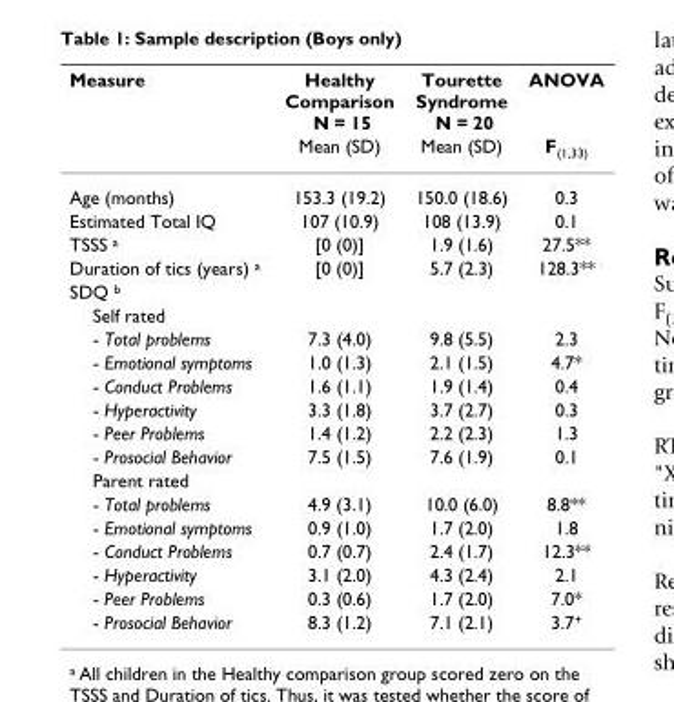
<table><thead><tr><td rowspan="2">Measure</td><td rowspan="2">Healthy Comparison N = 15 Mean (SD)</td><td rowspan="2">Tourette Syndrome N = 20 Mean (SD)</td><td rowspan="2">ANOVA F<sub>(1,33)</sub></td></tr><tr></tr></thead><tbody><tr><td>Age (months)</td><td>153.3 (19.2)</td><td>150.0 (18.6)</td><td>0.3</td></tr><tr><td>Estimated Total IQ</td><td>107 (10.9)</td><td>108 (13.9)</td><td>0.1</td></tr><tr><td>TSSS <sup>a</sup></td><td>[0 (0)]</td><td>1.9 (1.6)</td><td>27.5**</td></tr><tr><td>Duration of tics (years) <sup>a</sup></td><td>[0 (0)]</td><td>5.7 (2.3)</td><td>128.3**</td></tr><tr><td colspan="4">SDQ <sup>b</sup></td></tr><tr><td colspan="4">Self rated</td></tr><tr><td>- Total problems</td><td>7.3 (4.0)</td><td>9.8 (5.5)</td><td>2.3</td></tr><tr><td>- Emotional symptoms</td><td>1.0 (1.3)</td><td>2.1 (1.5)</td><td>4.7*</td></tr><tr><td>- Conduct Problems</td><td>1.6 (1.1)</td><td>1.9 (1.4)</td><td>0.4</td></tr><tr><td>- Hyperactivity</td><td>3.3 (1.8)</td><td>3.7 (2.7)</td><td>0.3</td></tr><tr><td>- Peer Problems</td><td>1.4 (1.2)</td><td>2.2 (2.3)</td><td>1.3</td></tr><tr><td>- Prosocial Behavior</td><td>7.5 (1.5)</td><td>7.6 (1.9)</td><td>0.1</td></tr><tr><td colspan="4">Parent rated</td></tr><tr><td>- Total problems</td><td>4.9 (3.1)</td><td>10.0 (6.0)</td><td>8.8**</td></tr><tr><td>- Emotional symptoms</td><td>0.9 (1.0)</td><td>1.7 (2.0)</td><td>1.8</td></tr><tr><td>- Conduct Problems</td><td>0.7 (0.7)</td><td>2.4 (1.7)</td><td>12.3**</td></tr><tr><td>- Hyperactivity</td><td>3.1 (2.0)</td><td>4.3 (2.4)</td><td>2.1</td></tr><tr><td>- Peer Problems</td><td>0.3 (0.6)</td><td>1.7 (2.0)</td><td>7.0*</td></tr><tr><td>- Prosocial Behavior</td><td>8.3 (1.2)</td><td>7.1 (2.1)</td><td>3.7<sup>+</sup></td></tr></tbody></table>